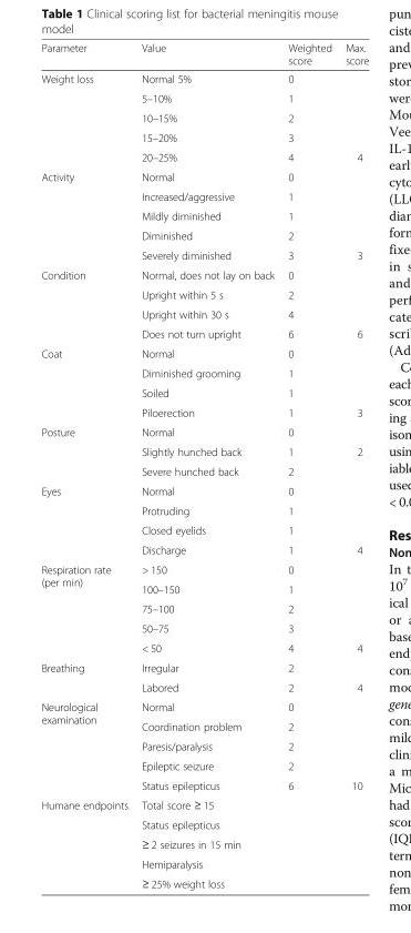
<table><thead><tr><td>Parameter</td><td>Value</td><td>Weighted score</td><td>Max. score</td></tr></thead><tbody><tr><td rowspan="5">Weight loss</td><td>Normal 5%</td><td>0</td><td></td></tr><tr><td>5–10%</td><td>1</td><td></td></tr><tr><td>10–15%</td><td>2</td><td></td></tr><tr><td>15–20%</td><td>3</td><td></td></tr><tr><td>20–25%</td><td>4</td><td>4</td></tr><tr><td rowspan="5">Activity</td><td>Normal</td><td>0</td><td></td></tr><tr><td>Increased/aggressive</td><td>1</td><td></td></tr><tr><td>Mildly diminished</td><td>1</td><td></td></tr><tr><td>Diminished</td><td>2</td><td></td></tr><tr><td>Severely diminished</td><td>3</td><td>3</td></tr><tr><td rowspan="4">Condition</td><td>Normal, does not lay on back</td><td>0</td><td></td></tr><tr><td>Upright within 5 s</td><td>2</td><td></td></tr><tr><td>Upright within 30 s</td><td>4</td><td></td></tr><tr><td>Does not turn upright</td><td>6</td><td>6</td></tr><tr><td rowspan="4">Coat</td><td>Normal</td><td>0</td><td></td></tr><tr><td>Diminished grooming</td><td>1</td><td></td></tr><tr><td>Soiled</td><td>1</td><td></td></tr><tr><td>Piloerection</td><td>1</td><td>3</td></tr><tr><td rowspan="3">Posture</td><td>Normal</td><td>0</td><td></td></tr><tr><td>Slightly hunched back</td><td>1</td><td>2</td></tr><tr><td>Severe hunched back</td><td>2</td><td></td></tr><tr><td rowspan="4">Eyes</td><td>Normal</td><td>0</td><td></td></tr><tr><td>Protruding</td><td>1</td><td></td></tr><tr><td>Closed eyelids</td><td>1</td><td></td></tr><tr><td>Discharge</td><td>1</td><td>4</td></tr><tr><td rowspan="5">Respiration rate (per min)</td><td>&gt; 150</td><td>0</td><td></td></tr><tr><td>100–150</td><td>1</td><td></td></tr><tr><td>75–100</td><td>2</td><td></td></tr><tr><td>50–75</td><td>3</td><td></td></tr><tr><td>&lt; 50</td><td>4</td><td>4</td></tr><tr><td rowspan="2">Breathing</td><td>Irregular</td><td>2</td><td></td></tr><tr><td>Labored</td><td>2</td><td>4</td></tr><tr><td rowspan="5">Neurological examination</td><td>Normal</td><td>0</td><td></td></tr><tr><td>Coordination problem</td><td>2</td><td></td></tr><tr><td>Paresis/paralysis</td><td>2</td><td></td></tr><tr><td>Epileptic seizure</td><td>2</td><td></td></tr><tr><td>Status epilepticus</td><td>6</td><td>10</td></tr><tr><td rowspan="5">Humane endpoints</td><td>Total score ≥ 15</td><td></td><td></td></tr><tr><td>Status epilepticus</td><td></td><td></td></tr><tr><td>≥ 2 seizures in 15 min</td><td></td><td></td></tr><tr><td>Hemiparalysis</td><td></td><td></td></tr><tr><td>≥ 25% weight loss</td><td></td><td></td></tr></tbody></table>